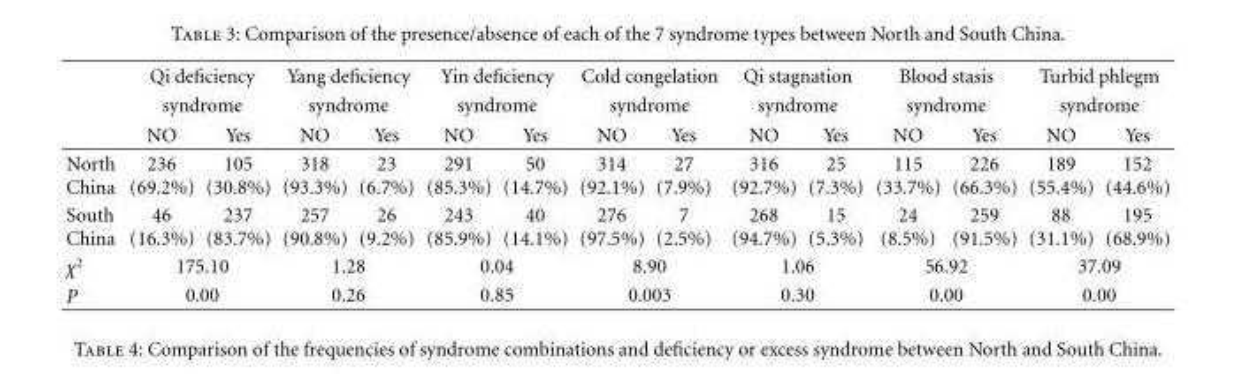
<table><thead><tr><td rowspan="3"></td><td rowspan="2" colspan="2">Qi deficiency syndrome</td><td rowspan="2" colspan="2">Yang deficiency syndrome</td><td rowspan="2" colspan="2">Yin deficiency syndrome</td><td rowspan="2" colspan="2">Cold congelation syndrome</td><td rowspan="2" colspan="2">Qi stagnation syndrome</td><td rowspan="2" colspan="2">Blood stasis syndrome</td><td rowspan="2" colspan="2">Turbid phlegm syndrome</td></tr><tr></tr><tr><td>NO</td><td>Yes</td><td>NO</td><td>Yes</td><td>NO</td><td>Yes</td><td>NO</td><td>Yes</td><td>NO</td><td>Yes</td><td>NO</td><td>Yes</td><td>NO</td><td>Yes</td></tr></thead><tbody><tr><td>North China</td><td>236 (69.2%)</td><td>105 (30.8%)</td><td>318 (93.3%)</td><td>23 (6.7%)</td><td>291 (85.3%)</td><td>50 (14.7%)</td><td>314 (92.1%)</td><td>27 (7.9%)</td><td>316 (92.7%)</td><td>25 (7.3%)</td><td>115 (33.7%)</td><td>226 (66.3%)</td><td>189 (55.4%)</td><td>152 (44.6%)</td></tr><tr><td>South China</td><td>46 (16.3%)</td><td>237 (83.7%)</td><td>257 (90.8%)</td><td>26 (9.2%)</td><td>243 (85.9%)</td><td>40 (14.1%)</td><td>276 (97.5%)</td><td>7 (2.5%)</td><td>268 (94.7%)</td><td>15 (5.3%)</td><td>24 (8.5%)</td><td>259 (91.5%)</td><td>88 (31.1%)</td><td>195 (68.9%)</td></tr><tr><td>χ<sup>2</sup></td><td colspan="2">175.10</td><td colspan="2">1.28</td><td colspan="2">0.04</td><td colspan="2">8.90</td><td colspan="2">1.06</td><td colspan="2">56.92</td><td colspan="2">37.09</td></tr><tr><td>P</td><td colspan="2">0.00</td><td colspan="2">0.26</td><td colspan="2">0.85</td><td colspan="2">0.003</td><td colspan="2">0.30</td><td colspan="2">0.00</td><td colspan="2">0.00</td></tr></tbody></table>